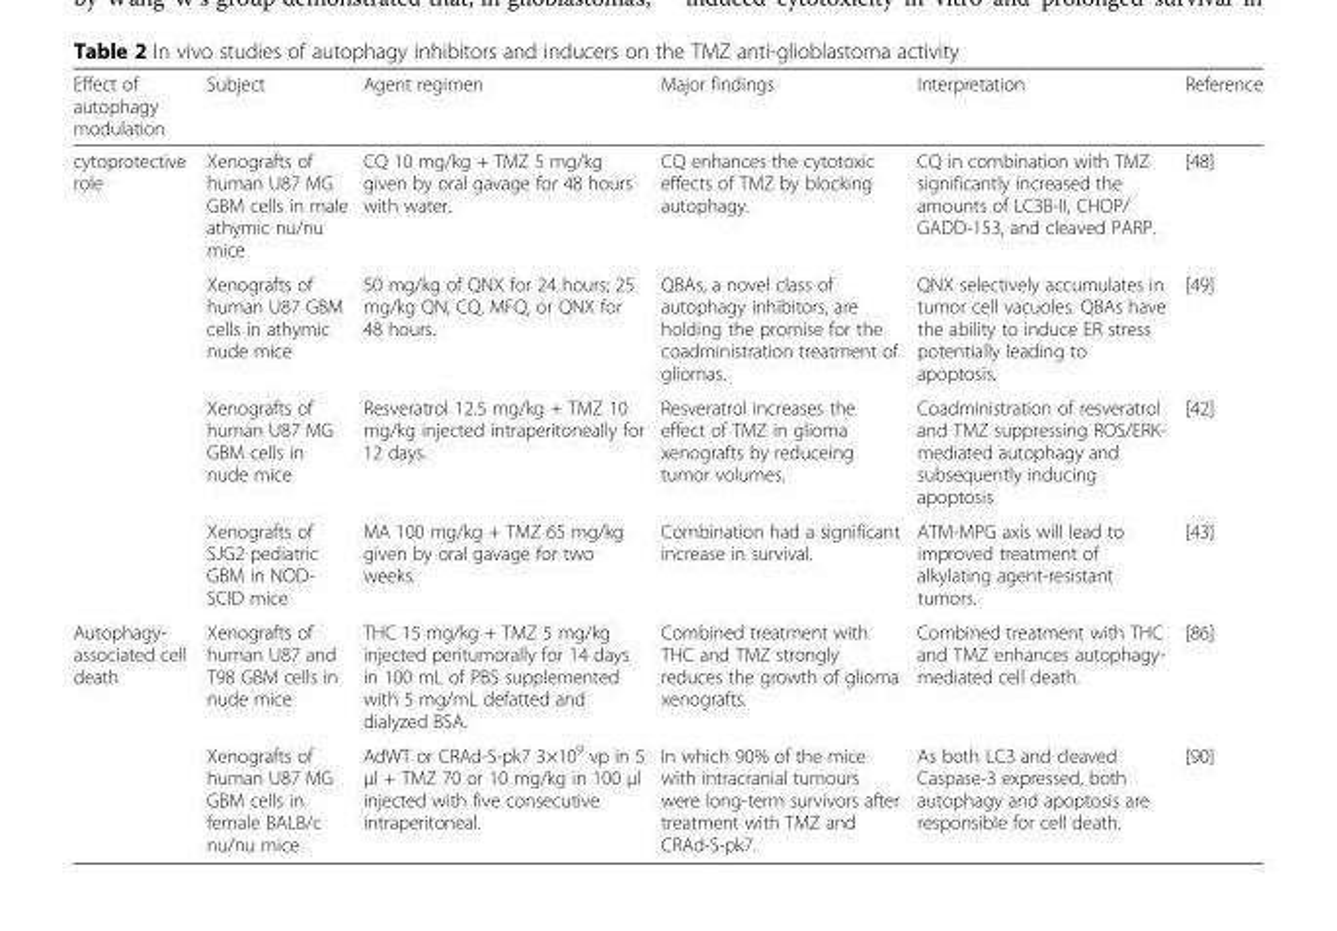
<table><thead><tr><td>Effect of autophagy modulation</td><td>Subject</td><td>Agent regimen</td><td>Major findings</td><td>Interpretation</td><td>Reference</td></tr></thead><tbody><tr><td rowspan="4">cytoprotective role</td><td>Xenografts of human U87 MG GBM cells in male athymic nu/nu mice</td><td>CQ 10 mg/kg + TMZ 5 mg/kg given by oral gavage for 48 hours with water.</td><td>CQ enhances the cytotoxic effects of TMZ by blocking autophagy.</td><td>CQ in combination with TMZ significantly increased the amounts of LC3B-II, CHOP/ GADD-153, and cleaved PARP.</td><td>[48]</td></tr><tr><td>Xenografts of human U87 GBM cells in athymic nude mice</td><td>50 mg/kg of QNX for 24 hours; 25 mg/kg QN, CQ, MFQ, or QNX for 48 hours.</td><td>QBAs, a novel class of autophagy inhibitors, are holding the promise for the coadministration treatment of gliomas.</td><td>QNX selectively accumulates in tumor cell vacuoles. QBAs have the ability to induce ER stress potentially leading to apoptosis.</td><td>[49]</td></tr><tr><td>Xenografts of human U87 MG GBM cells in nude mice</td><td>Resveratrol 12.5 mg/kg + TMZ 10 mg/kg injected intraperitoneally for 12 days.</td><td>Resveratrol increases the effect of TMZ in glioma xenografts by reduceing tumor volumes.</td><td>Coadministration of resveratrol and TMZ suppressing ROS/ERK- mediated autophagy and subsequently inducing apoptosis</td><td>[42]</td></tr><tr><td>Xenografts of SJG2 pediatric GBM in NOD- SCID mice</td><td>MA 100 mg/kg + TMZ 65 mg/kg given by oral gavage for two weeks.</td><td>Combination had a significant increase in survival.</td><td>ATM-MPG axis will lead to improved treatment of alkylating agent-resistant tumors.</td><td>[43]</td></tr><tr><td rowspan="2">Autophagy- associated cell death</td><td>Xenografts of human U87 and T98 GBM cells in nude mice</td><td>THC 15 mg/kg + TMZ 5 mg/kg injected peritumorally for 14 days in 100 mL of PBS supplemented with 5 mg/mL defatted and dialyzed BSA.</td><td>Combined treatment with THC and TMZ strongly reduces the growth of glioma xenografts.</td><td>Combined treatment with THC and TMZ enhances autophagy- mediated cell death.</td><td>[86]</td></tr><tr><td>Xenografts of human U87 MG GBM cells in female BALB/c nu/nu mice</td><td>AdWT or CRAd-S-pk7 3×10<sup>9</sup> vp in 5 μl + TMZ 70 or 10 mg/kg in 100 μl injected with five consecutive intraperitoneal.</td><td>In which 90% of the mice with intracranial tumours were long-term survivors after treatment with TMZ and CRAd-S-pk7.</td><td>As both LC3 and cleaved Caspase-3 expressed, both autophagy and apoptosis are responsible for cell death.</td><td>[90]</td></tr></tbody></table>